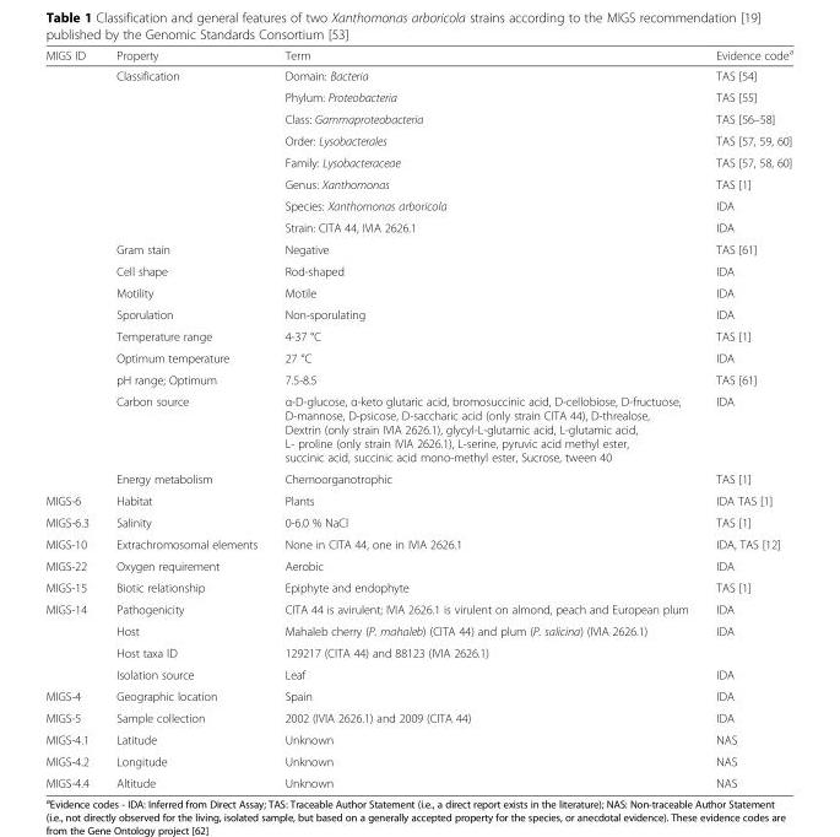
<table><thead><tr><td>MIGS ID</td><td>Property</td><td>Term</td><td>Evidence code<sup>a</sup></td></tr></thead><tbody><tr><td></td><td>Classification</td><td>Domain: Bacteria</td><td>TAS [54]</td></tr><tr><td></td><td></td><td>Phylum: Proteobacteria</td><td>TAS [55]</td></tr><tr><td></td><td></td><td>Class: Gammaproteobacteria</td><td>TAS [56–58]</td></tr><tr><td></td><td></td><td>Order: Lysobacterales</td><td>TAS [57, 59, 60]</td></tr><tr><td></td><td></td><td>Family: Lysobacteraceae</td><td>TAS [57, 58, 60]</td></tr><tr><td></td><td></td><td>Genus: Xanthomonas</td><td>TAS [1]</td></tr><tr><td></td><td></td><td>Species: Xanthomonas arboricola</td><td>IDA</td></tr><tr><td></td><td></td><td>Strain: CITA 44, IVIA 2626.1</td><td>IDA</td></tr><tr><td></td><td>Gram stain</td><td>Negative</td><td>TAS [61]</td></tr><tr><td></td><td>Cell shape</td><td>Rod-shaped</td><td>IDA</td></tr><tr><td></td><td>Motility</td><td>Motile</td><td>IDA</td></tr><tr><td></td><td>Sporulation</td><td>Non-sporulating</td><td>IDA</td></tr><tr><td></td><td>Temperature range</td><td>4-37 °C</td><td>TAS [1]</td></tr><tr><td></td><td>Optimum temperature</td><td>27 °C</td><td>IDA</td></tr><tr><td></td><td>pH range; Optimum</td><td>7.5-8.5</td><td>TAS [61]</td></tr><tr><td></td><td>Carbon source</td><td>α-D-glucose, α-keto glutaric acid, bromosuccinic acid, D-cellobiose, D-fructuose, D-mannose, D-psicose, D-saccharic acid (only strain CITA 44), D-threalose, Dextrin (only strain IVIA 2626.1), glycyl-L-glutamic acid, L-glutamic acid, L- proline (only strain IVIA 2626.1), L-serine, pyruvic acid methyl ester, succinic acid, succinic acid mono-methyl ester, Sucrose, tween 40</td><td>IDA</td></tr><tr><td></td><td>Energy metabolism</td><td>Chemoorganotrophic</td><td>TAS [1]</td></tr><tr><td>MIGS-6</td><td>Habitat</td><td>Plants</td><td>IDA TAS [1]</td></tr><tr><td>MIGS-6.3</td><td>Salinity</td><td>0-6.0 % NaCl</td><td>TAS [1]</td></tr><tr><td>MIGS-10</td><td>Extrachromosomal elements</td><td>None in CITA 44, one in IVIA 2626.1</td><td>IDA, TAS [12]</td></tr><tr><td>MIGS-22</td><td>Oxygen requirement</td><td>Aerobic</td><td>IDA</td></tr><tr><td>MIGS-15</td><td>Biotic relationship</td><td>Epiphyte and endophyte</td><td>TAS [1]</td></tr><tr><td rowspan="4">MIGS-14</td><td>Pathogenicity</td><td>CITA 44 is avirulent; IVIA 2626.1 is virulent on almond, peach and European plum</td><td>IDA</td></tr><tr><td>Host</td><td>Mahaleb cherry (P. mahaleb) (CITA 44) and plum (P. salicina) (IVIA 2626.1)</td><td>IDA</td></tr><tr><td>Host taxa ID</td><td>129217 (CITA 44) and 88123 (IVIA 2626.1)</td><td></td></tr><tr><td>Isolation source</td><td>Leaf</td><td>IDA</td></tr><tr><td>MIGS-4</td><td>Geographic location</td><td>Spain</td><td>IDA</td></tr><tr><td>MIGS-5</td><td>Sample collection</td><td>2002 (IVIA 2626.1) and 2009 (CITA 44)</td><td>IDA</td></tr><tr><td>MIGS-4.1</td><td>Latitude</td><td>Unknown</td><td>NAS</td></tr><tr><td>MIGS-4.2</td><td>Longitude</td><td>Unknown</td><td>NAS</td></tr><tr><td>MIGS-4.4</td><td>Altitude</td><td>Unknown</td><td>NAS</td></tr></tbody></table>